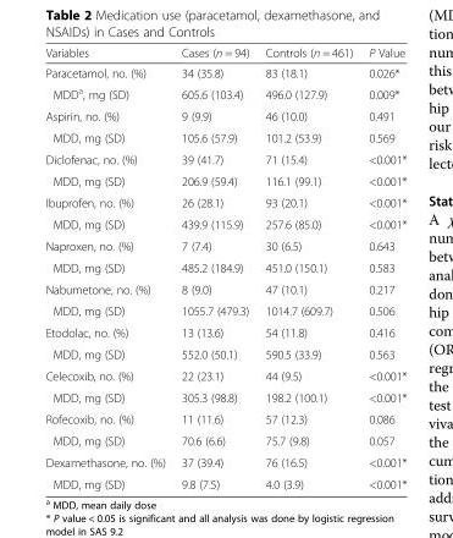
<table><thead><tr><td>Variables</td><td>Cases (n = 94)</td><td>Controls (n = 461)</td><td>P Value</td></tr></thead><tbody><tr><td>Paracetamol, no. (%)</td><td>34 (35.8)</td><td>83 (18.1)</td><td>0.026*</td></tr><tr><td>MDD<sup>a</sup>, mg (SD)</td><td>605.6 (103.4)</td><td>496.0 (127.9)</td><td>0.009*</td></tr><tr><td>Aspirin, no. (%)</td><td>9 (9.9)</td><td>46 (10.0)</td><td>0.491</td></tr><tr><td>MDD, mg (SD)</td><td>105.6 (57.9)</td><td>101.2 (53.9)</td><td>0.569</td></tr><tr><td>Diclofenac, no. (%)</td><td>39 (41.7)</td><td>71 (15.4)</td><td>&lt;0.001*</td></tr><tr><td>MDD, mg (SD)</td><td>206.9 (59.4)</td><td>116.1 (99.1)</td><td>&lt;0.001*</td></tr><tr><td>Ibuprofen, no. (%)</td><td>26 (28.1)</td><td>93 (20.1)</td><td>&lt;0.001*</td></tr><tr><td>MDD, mg (SD)</td><td>439.9 (115.9)</td><td>257.6 (85.0)</td><td>&lt;0.001*</td></tr><tr><td>Naproxen, no. (%)</td><td>7 (7.4)</td><td>30 (6.5)</td><td>0.643</td></tr><tr><td>MDD, mg (SD)</td><td>485.2 (184.9)</td><td>451.0 (150.1)</td><td>0.583</td></tr><tr><td>Nabumetone, no. (%)</td><td>8 (9.0)</td><td>47 (10.1)</td><td>0.217</td></tr><tr><td>MDD, mg (SD)</td><td>1055.7 (479.3)</td><td>1014.7 (609.7)</td><td>0.506</td></tr><tr><td>Etodolac, no. (%)</td><td>13 (13.6)</td><td>54 (11.8)</td><td>0.416</td></tr><tr><td>MDD, mg (SD)</td><td>552.0 (50.1)</td><td>590.5 (33.9)</td><td>0.563</td></tr><tr><td>Celecoxib, no. (%)</td><td>22 (23.1)</td><td>44 (9.5)</td><td>&lt;0.001*</td></tr><tr><td>MDD, mg (SD)</td><td>305.3 (98.8)</td><td>198.2 (100.1)</td><td>&lt;0.001*</td></tr><tr><td>Rofecoxib, no. (%)</td><td>11 (11.6)</td><td>57 (12.3)</td><td>0.086</td></tr><tr><td>MDD, mg (SD)</td><td>70.6 (6.6)</td><td>75.7 (9.8)</td><td>0.057</td></tr><tr><td>Dexamethasone, no. (%)</td><td>37 (39.4)</td><td>76 (16.5)</td><td>&lt;0.001*</td></tr><tr><td>MDD, mg (SD)</td><td>9.8 (7.5)</td><td>4.0 (3.9)</td><td>&lt;0.001*</td></tr></tbody></table>